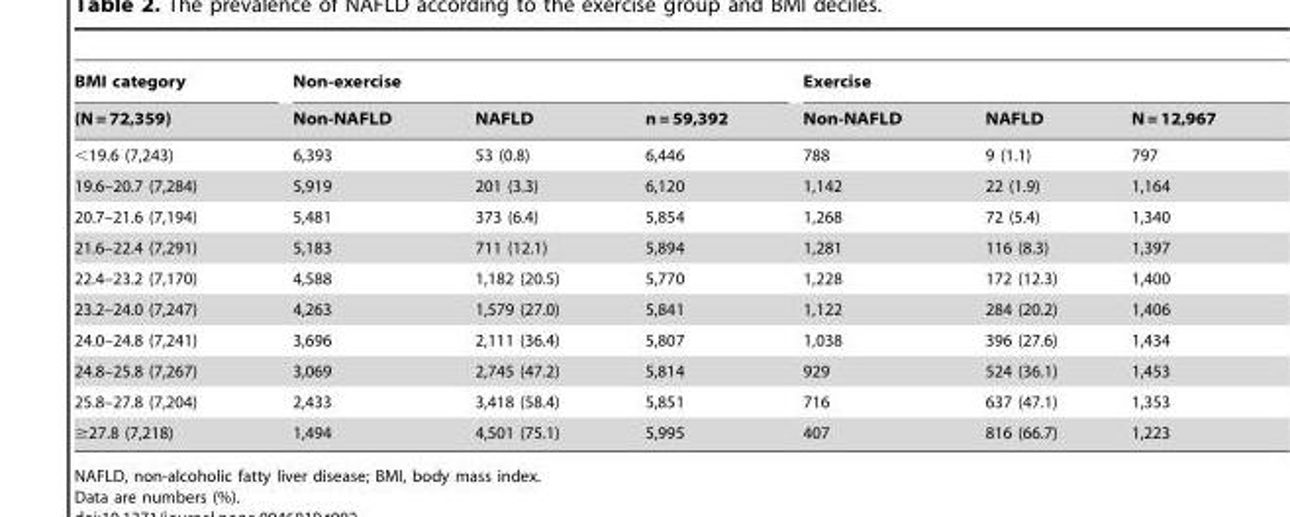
<table><thead><tr><td rowspan="2">BMI category (N = 72,359)</td><td colspan="3">Non-exercise</td><td colspan="3">Exercise</td></tr><tr><td>Non-NAFLD</td><td>NAFLD</td><td>n = 59,392</td><td>Non-NAFLD</td><td>NAFLD</td><td>N = 12,967</td></tr></thead><tbody><tr><td>&lt;19.6 (7,243)</td><td>6,393</td><td>53 (0.8)</td><td>6,446</td><td>788</td><td>9 (1.1)</td><td>797</td></tr><tr><td>19.6–20.7 (7,284)</td><td>5,919</td><td>201 (3.3)</td><td>6,120</td><td>1,142</td><td>22 (1.9)</td><td>1,164</td></tr><tr><td>20.7–21.6 (7,194)</td><td>5,481</td><td>373 (6.4)</td><td>5,854</td><td>1,268</td><td>72 (5.4)</td><td>1,340</td></tr><tr><td>21.6–22.4 (7,291)</td><td>5,183</td><td>711 (12.1)</td><td>5,894</td><td>1,281</td><td>116 (8.3)</td><td>1,397</td></tr><tr><td>22.4–23.2 (7,170)</td><td>4,588</td><td>1,182 (20.5)</td><td>5,770</td><td>1,228</td><td>172 (12.3)</td><td>1,400</td></tr><tr><td>23.2–24.0 (7,247)</td><td>4,263</td><td>1,579 (27.0)</td><td>5,841</td><td>1,122</td><td>284 (20.2)</td><td>1,406</td></tr><tr><td>24.0–24.8 (7,241)</td><td>3,696</td><td>2,111 (36.4)</td><td>5,807</td><td>1,038</td><td>396 (27.6)</td><td>1,434</td></tr><tr><td>24.8–25.8 (7,267)</td><td>3,069</td><td>2,745 (47.2)</td><td>5,814</td><td>929</td><td>524 (36.1)</td><td>1,453</td></tr><tr><td>25.8–27.8 (7,204)</td><td>2,433</td><td>3,418 (58.4)</td><td>5,851</td><td>716</td><td>637 (47.1)</td><td>1,353</td></tr><tr><td>≥27.8 (7,218)</td><td>1,494</td><td>4,501 (75.1)</td><td>5,995</td><td>407</td><td>816 (66.7)</td><td>1,223</td></tr></tbody></table>